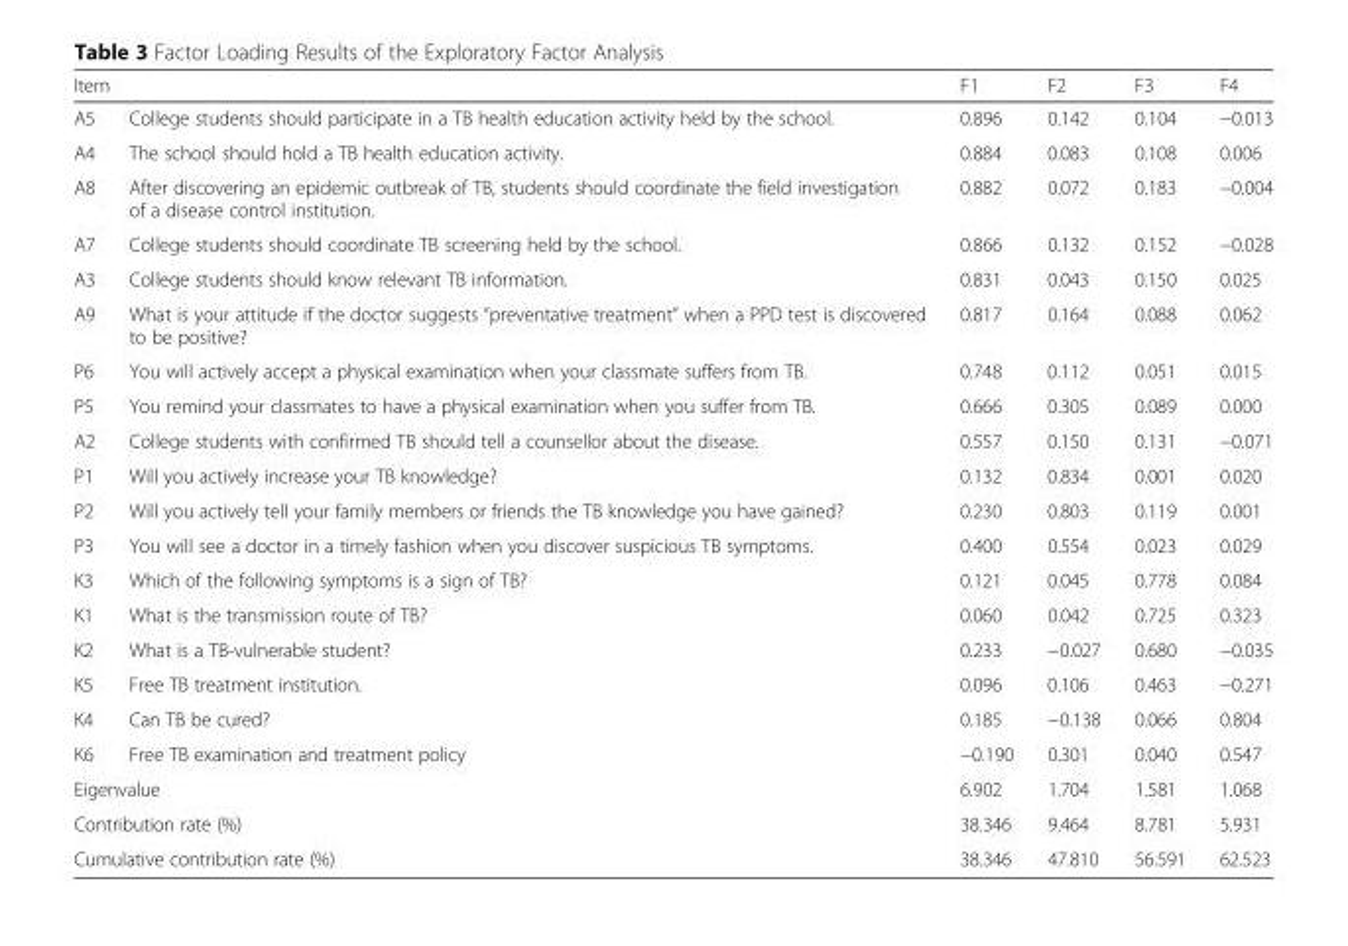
<table><thead><tr><td colspan="2">Item</td><td rowspan="2">F1 0.896</td><td rowspan="2">F2 0.142</td><td rowspan="2">F3 0.104</td><td rowspan="2">F4 −0.013</td></tr><tr><td>A5</td><td>College students should participate in a TB health education activity held by the school.</td></tr></thead><tbody><tr><td>A4</td><td>The school should hold a TB health education activity.</td><td>0.884</td><td>0.083</td><td>0.108</td><td>0.006</td></tr><tr><td>A8</td><td>After discovering an epidemic outbreak of TB, students should coordinate the field investigation of a disease control institution.</td><td>0.882</td><td>0.072</td><td>0.183</td><td>−0.004</td></tr><tr><td>A7</td><td>College students should coordinate TB screening held by the school.</td><td>0.866</td><td>0.132</td><td>0.152</td><td>−0.028</td></tr><tr><td>A3</td><td>College students should know relevant TB information.</td><td>0.831</td><td>0.043</td><td>0.150</td><td>0.025</td></tr><tr><td>A9</td><td>What is your attitude if the doctor suggests “preventative treatment” when a PPD test is discovered to be positive?</td><td>0.817</td><td>0.164</td><td>0.088</td><td>0.062</td></tr><tr><td>P6</td><td>You will actively accept a physical examination when your classmate suffers from TB.</td><td>0.748</td><td>0.112</td><td>0.051</td><td>0.015</td></tr><tr><td>P5</td><td>You remind your classmates to have a physical examination when you suffer from TB.</td><td>0.666</td><td>0.305</td><td>0.089</td><td>0.000</td></tr><tr><td>A2</td><td>College students with confirmed TB should tell a counsellor about the disease.</td><td>0.557</td><td>0.150</td><td>0.131</td><td>−0.071</td></tr><tr><td>P1</td><td>Will you actively increase your TB knowledge?</td><td>0.132</td><td>0.834</td><td>0.001</td><td>0.020</td></tr><tr><td>P2</td><td>Will you actively tell your family members or friends the TB knowledge you have gained?</td><td>0.230</td><td>0.803</td><td>0.119</td><td>0.001</td></tr><tr><td>P3</td><td>You will see a doctor in a timely fashion when you discover suspicious TB symptoms.</td><td>0.400</td><td>0.554</td><td>0.023</td><td>0.029</td></tr><tr><td>K3</td><td>Which of the following symptoms is a sign of TB?</td><td>0.121</td><td>0.045</td><td>0.778</td><td>0.084</td></tr><tr><td>K1</td><td>What is the transmission route of TB?</td><td>0.060</td><td>0.042</td><td>0.725</td><td>0.323</td></tr><tr><td>K2</td><td>What is a TB-vulnerable student?</td><td>0.233</td><td>−0.027</td><td>0.680</td><td>−0.035</td></tr><tr><td>K5</td><td>Free TB treatment institution.</td><td>0.096</td><td>0.106</td><td>0.463</td><td>−0.271</td></tr><tr><td>K4</td><td>Can TB be cured?</td><td>0.185</td><td>−0.138</td><td>0.066</td><td>0.804</td></tr><tr><td>K6</td><td>Free TB examination and treatment policy</td><td>−0.190</td><td>0.301</td><td>0.040</td><td>0.547</td></tr><tr><td colspan="2">Eigenvalue</td><td>6.902</td><td>1.704</td><td>1.581</td><td>1.068</td></tr><tr><td colspan="2">Contribution rate (%)</td><td>38.346</td><td>9.464</td><td>8.781</td><td>5.931</td></tr><tr><td colspan="2">Cumulative contribution rate (%)</td><td>38.346</td><td>47.810</td><td>56.591</td><td>62.523</td></tr></tbody></table>